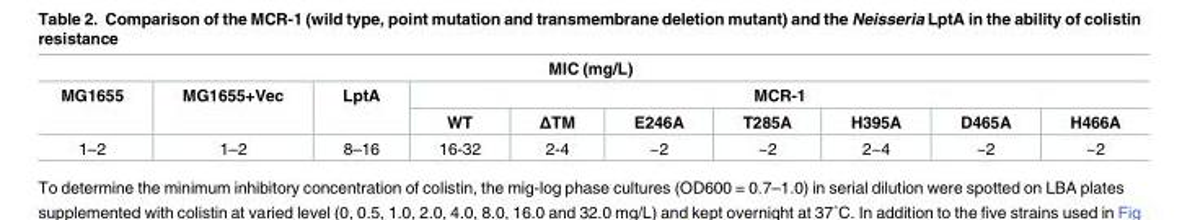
<table><thead><tr><td colspan="10">MIC (mg/L)</td></tr><tr><td rowspan="2">MG1655</td><td rowspan="2">MG1655+Vec</td><td rowspan="2">LptA</td><td colspan="7">MCR-1</td></tr><tr><td>WT</td><td>ΔTM</td><td>E246A</td><td>T285A</td><td>H395A</td><td>D465A</td><td>H466A</td></tr></thead><tbody><tr><td>1–2</td><td>1–2</td><td>8–16</td><td>16-32</td><td>2-4</td><td>~2</td><td>~2</td><td>2~4</td><td>~2</td><td>~2</td></tr></tbody></table>